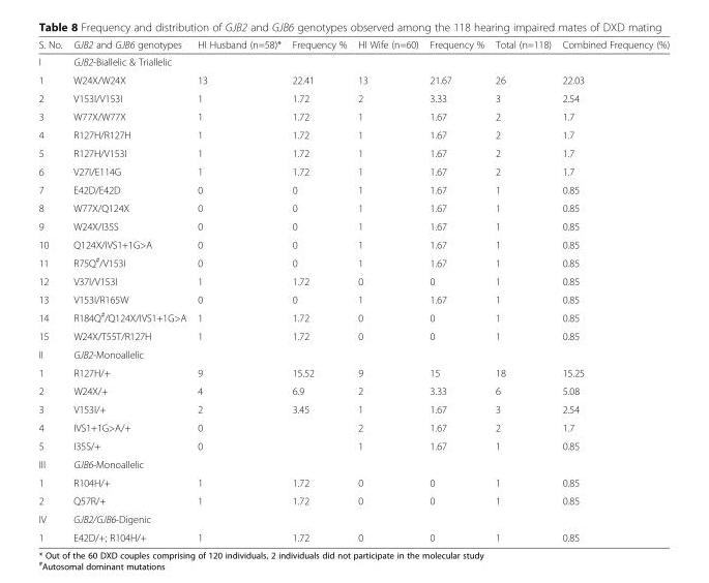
<table><thead><tr><td>S. No.</td><td>GJB2 and GJB6 genotypes</td><td>HI Husband (n=58)*</td><td>Frequency %</td><td>HI Wife (n=60)</td><td>Frequency %</td><td>Total (n=118)</td><td>Combined Frequency (%)</td></tr></thead><tbody><tr><td>I</td><td>GJB2-Biallelic &amp; Triallelic</td><td></td><td></td><td></td><td></td><td></td><td></td></tr><tr><td>1</td><td>W24X/W24X</td><td>13</td><td>22.41</td><td>13</td><td>21.67</td><td>26</td><td>22.03</td></tr><tr><td>2</td><td>V153I/V153I</td><td>1</td><td>1.72</td><td>2</td><td>3.33</td><td>3</td><td>2.54</td></tr><tr><td>3</td><td>W77X/W77X</td><td>1</td><td>1.72</td><td>1</td><td>1.67</td><td>2</td><td>1.7</td></tr><tr><td>4</td><td>R127H/R127H</td><td>1</td><td>1.72</td><td>1</td><td>1.67</td><td>2</td><td>1.7</td></tr><tr><td>5</td><td>R127H/V153I</td><td>1</td><td>1.72</td><td>1</td><td>1.67</td><td>2</td><td>1.7</td></tr><tr><td>6</td><td>V27I/E114G</td><td>1</td><td>1.72</td><td>1</td><td>1.67</td><td>2</td><td>1.7</td></tr><tr><td>7</td><td>E42D/E42D</td><td>0</td><td>0</td><td>1</td><td>1.67</td><td>1</td><td>0.85</td></tr><tr><td>8</td><td>W77X/Q124X</td><td>0</td><td>0</td><td>1</td><td>1.67</td><td>1</td><td>0.85</td></tr><tr><td>9</td><td>W24X/I35S</td><td>0</td><td>0</td><td>1</td><td>1.67</td><td>1</td><td>0.85</td></tr><tr><td>10</td><td>Q124X/IVS1+1G&gt;A</td><td>0</td><td>0</td><td>1</td><td>1.67</td><td>1</td><td>0.85</td></tr><tr><td>11</td><td>R75Q<sup>#</sup>/V153I</td><td>0</td><td>0</td><td>1</td><td>1.67</td><td>1</td><td>0.85</td></tr><tr><td>12</td><td>V37I/V153I</td><td>1</td><td>1.72</td><td>0</td><td>0</td><td>1</td><td>0.85</td></tr><tr><td>13</td><td>V153I/R165W</td><td>0</td><td>0</td><td>1</td><td>1.67</td><td>1</td><td>0.85</td></tr><tr><td>14</td><td>R184Q<sup>#</sup>/Q124X/IVS1+1G&gt;A</td><td>1</td><td>1.72</td><td>0</td><td>0</td><td>1</td><td>0.85</td></tr><tr><td>15</td><td>W24X/T55T/R127H</td><td>1</td><td>1.72</td><td>0</td><td>0</td><td>1</td><td>0.85</td></tr><tr><td>II</td><td>GJB2-Monoallelic</td><td></td><td></td><td></td><td></td><td></td><td></td></tr><tr><td>1</td><td>R127H/+</td><td>9</td><td>15.52</td><td>9</td><td>15</td><td>18</td><td>15.25</td></tr><tr><td>2</td><td>W24X/+</td><td>4</td><td>6.9</td><td>2</td><td>3.33</td><td>6</td><td>5.08</td></tr><tr><td>3</td><td>V153I/+</td><td>2</td><td>3.45</td><td>1</td><td>1.67</td><td>3</td><td>2.54</td></tr><tr><td>4</td><td>IVS1+1G&gt;A/+</td><td>0</td><td></td><td>2</td><td>1.67</td><td>2</td><td>1.7</td></tr><tr><td>5</td><td>I35S/+</td><td>0</td><td></td><td>1</td><td>1.67</td><td>1</td><td>0.85</td></tr><tr><td>III</td><td>GJB6-Monoallelic</td><td></td><td></td><td></td><td></td><td></td><td></td></tr><tr><td>1</td><td>R104H/+</td><td>1</td><td>1.72</td><td>0</td><td>0</td><td>1</td><td>0.85</td></tr><tr><td>2</td><td>Q57R/+</td><td>1</td><td>1.72</td><td>0</td><td>0</td><td>1</td><td>0.85</td></tr><tr><td>IV</td><td>GJB2/GJB6-Digenic</td><td></td><td></td><td></td><td></td><td></td><td></td></tr><tr><td>1</td><td>E42D/+; R104H/+</td><td>1</td><td>1.72</td><td>0</td><td>0</td><td>1</td><td>0.85</td></tr></tbody></table>